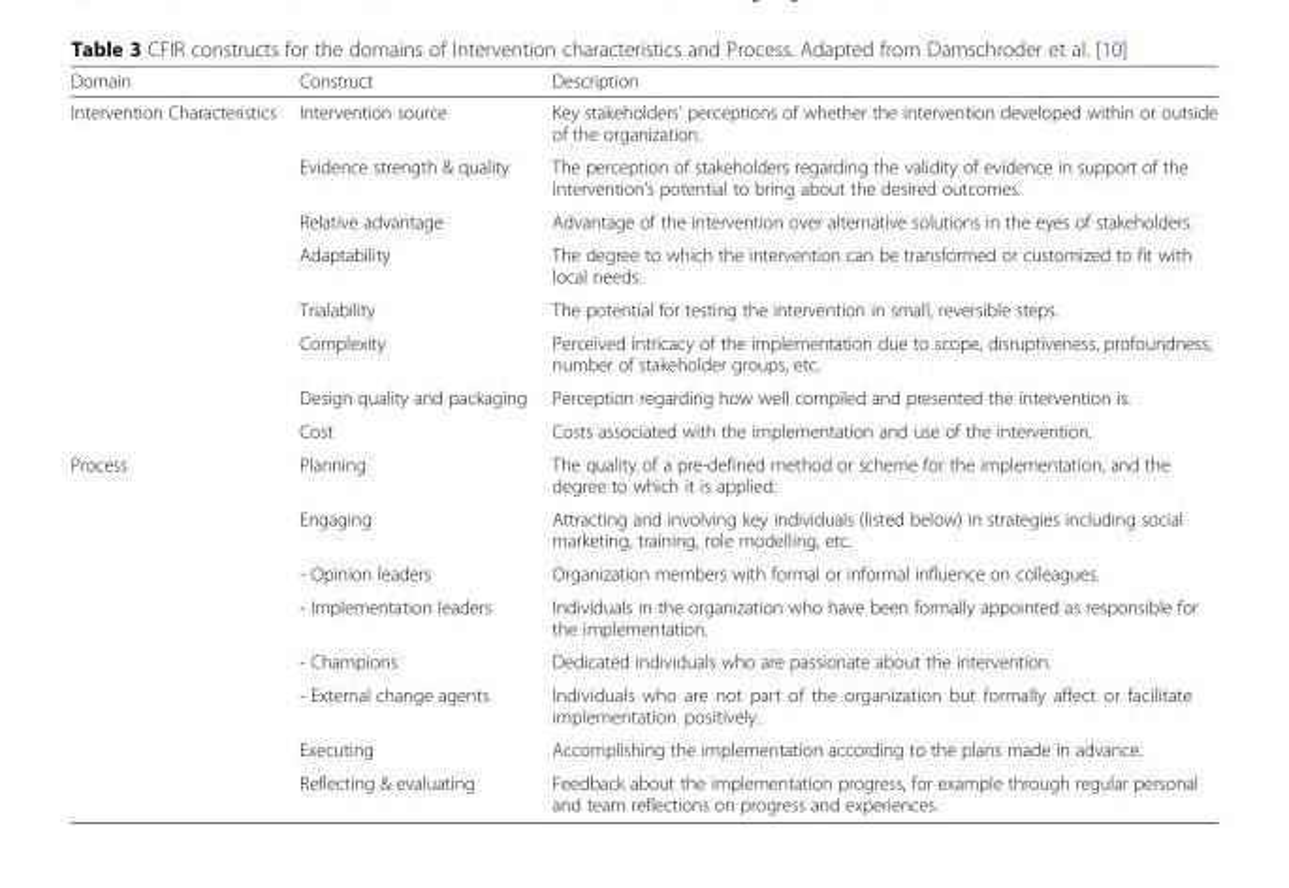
<table><thead><tr><td>Domain</td><td>Construct</td><td>Description</td></tr></thead><tbody><tr><td rowspan="8">Intervention Characteristics</td><td>Intervention source</td><td>Key stakeholders’ perceptions of whether the intervention developed within or outside of the organization.</td></tr><tr><td>Evidence strength &amp; quality</td><td>The perception of stakeholders regarding the validity of evidence in support of the intervention’s potential to bring about the desired outcomes.</td></tr><tr><td>Relative advantage</td><td>Advantage of the intervention over alternative solutions in the eyes of stakeholders.</td></tr><tr><td>Adaptability</td><td>The degree to which the intervention can be transformed or customized to fit with local needs.</td></tr><tr><td>Trialability</td><td>The potential for testing the intervention in small, reversible steps.</td></tr><tr><td>Complexity</td><td>Perceived intricacy of the implementation due to scope, disruptiveness, profoundness, number of stakeholder groups, etc.</td></tr><tr><td>Design quality and packaging</td><td>Perception regarding how well compiled and presented the intervention is.</td></tr><tr><td>Cost</td><td>Costs associated with the implementation and use of the intervention.</td></tr><tr><td rowspan="8">Process</td><td>Planning</td><td>The quality of a pre-defined method or scheme for the implementation, and the degree to which it is applied.</td></tr><tr><td>Engaging</td><td>Attracting and involving key individuals (listed below) in strategies including social marketing, training, role modelling, etc.</td></tr><tr><td>- Opinion leaders</td><td>Organization members with formal or informal influence on colleagues.</td></tr><tr><td>- Implementation leaders</td><td>Individuals in the organization who have been formally appointed as responsible for the implementation.</td></tr><tr><td>- Champions</td><td>Dedicated individuals who are passionate about the intervention.</td></tr><tr><td>- External change agents</td><td>Individuals who are not part of the organization but formally affect or facilitate implementation positively.</td></tr><tr><td>Executing</td><td>Accomplishing the implementation according to the plans made in advance.</td></tr><tr><td>Reflecting &amp; evaluating</td><td>Feedback about the implementation progress, for example through regular personal and team reflections on progress and experiences.</td></tr></tbody></table>